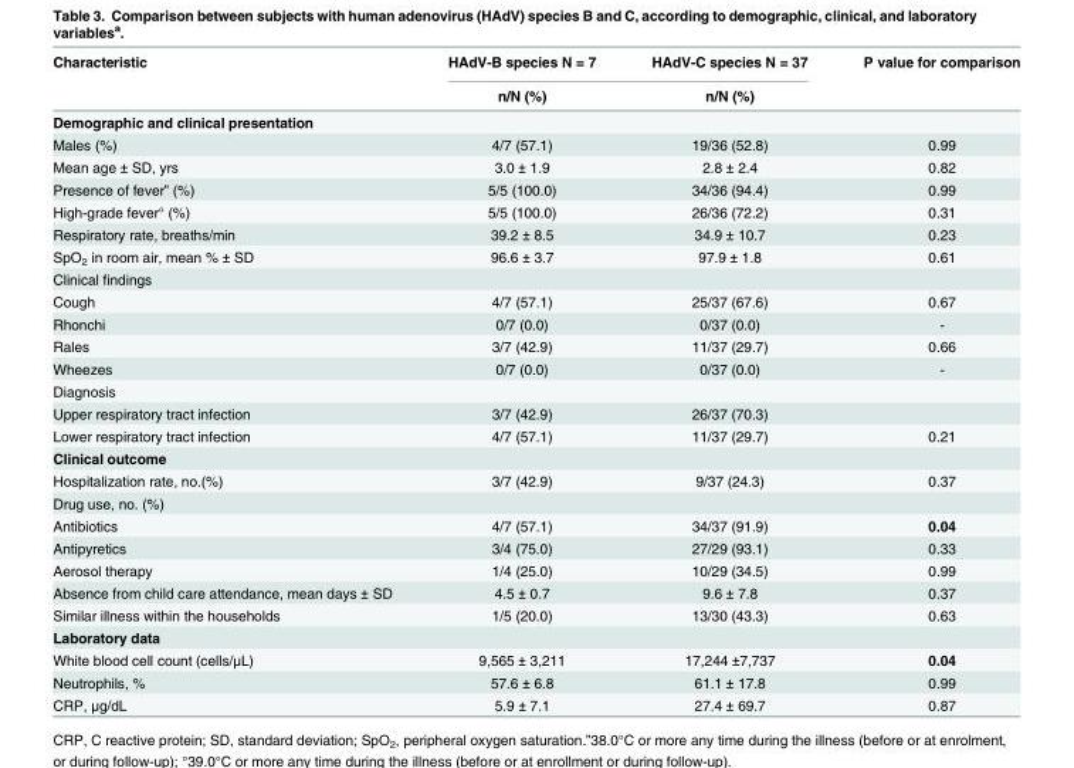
<table><thead><tr><td rowspan="2">Characteristic</td><td rowspan="2">HAdV-B species N = 7 n/N (%)</td><td rowspan="2">HAdV-C species N = 37 n/N (%)</td><td rowspan="2">P value for comparison</td></tr><tr></tr></thead><tbody><tr><td colspan="4">Demographic and clinical presentation</td></tr><tr><td>Males (%)</td><td>4/7 (57.1)</td><td>19/36 (52.8)</td><td>0.99</td></tr><tr><td>Mean age ± SD, yrs</td><td>3.0 ± 1.9</td><td>2.8 ± 2.4</td><td>0.82</td></tr><tr><td>Presence of fever” (%)</td><td>5/5 (100.0)</td><td>34/36 (94.4)</td><td>0.99</td></tr><tr><td>High-grade fever° (%)</td><td>5/5 (100.0)</td><td>26/36 (72.2)</td><td>0.31</td></tr><tr><td>Respiratory rate, breaths/min</td><td>39.2 ± 8.5</td><td>34.9 ± 10.7</td><td>0.23</td></tr><tr><td>SpO<sub>2</sub> in room air, mean % ± SD</td><td>96.6 ± 3.7</td><td>97.9 ± 1.8</td><td>0.61</td></tr><tr><td colspan="4">Clinical findings</td></tr><tr><td>Cough</td><td>4/7 (57.1)</td><td>25/37 (67.6)</td><td>0.67</td></tr><tr><td>Rhonchi</td><td>0/7 (0.0)</td><td>0/37 (0.0)</td><td>-</td></tr><tr><td>Rales</td><td>3/7 (42.9)</td><td>11/37 (29.7)</td><td>0.66</td></tr><tr><td>Wheezes</td><td>0/7 (0.0)</td><td>0/37 (0.0)</td><td>-</td></tr><tr><td colspan="4">Diagnosis</td></tr><tr><td>Upper respiratory tract infection</td><td>3/7 (42.9)</td><td>26/37 (70.3)</td><td></td></tr><tr><td>Lower respiratory tract infection</td><td>4/7 (57.1)</td><td>11/37 (29.7)</td><td>0.21</td></tr><tr><td colspan="4">Clinical outcome</td></tr><tr><td>Hospitalization rate, no.(%)</td><td>3/7 (42.9)</td><td>9/37 (24.3)</td><td>0.37</td></tr><tr><td colspan="4">Drug use, no. (%)</td></tr><tr><td>Antibiotics</td><td>4/7 (57.1)</td><td>34/37 (91.9)</td><td>0.04</td></tr><tr><td>Antipyretics</td><td>3/4 (75.0)</td><td>27/29 (93.1)</td><td>0.33</td></tr><tr><td>Aerosol therapy</td><td>1/4 (25.0)</td><td>10/29 (34.5)</td><td>0.99</td></tr><tr><td>Absence from child care attendance, mean days ± SD</td><td>4.5 ± 0.7</td><td>9.6 ± 7.8</td><td>0.37</td></tr><tr><td>Similar illness within the households</td><td>1/5 (20.0)</td><td>13/30 (43.3)</td><td>0.63</td></tr><tr><td colspan="4">Laboratory data</td></tr><tr><td>White blood cell count (cells/μL)</td><td>9,565 ± 3,211</td><td>17,244 ±7,737</td><td>0.04</td></tr><tr><td>Neutrophils, %</td><td>57.6 ± 6.8</td><td>61.1 ± 17.8</td><td>0.99</td></tr><tr><td>CRP, μg/dL</td><td>5.9 ± 7.1</td><td>27.4 ± 69.7</td><td>0.87</td></tr></tbody></table>